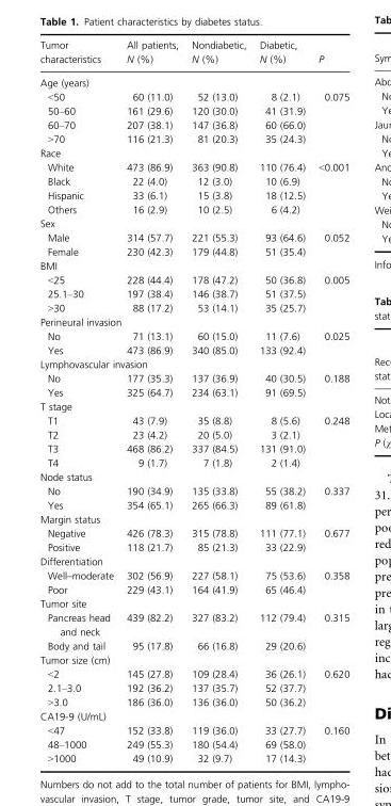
<table><thead><tr><td>Tumor characteristics</td><td>All patients, N (%)</td><td>Nondiabetic, N (%)</td><td>Diabetic, N (%)</td><td>P</td></tr></thead><tbody><tr><td colspan="5">Age (years)</td></tr><tr><td>&lt;50</td><td>60 (11.0)</td><td>52 (13.0)</td><td>8 (2.1)</td><td rowspan="4">0.075</td></tr><tr><td>50–60</td><td>161 (29.6)</td><td>120 (30.0)</td><td>41 (31.9)</td></tr><tr><td>60–70</td><td>207 (38.1)</td><td>147 (36.8)</td><td>60 (66.0)</td></tr><tr><td>&gt;70</td><td>116 (21.3)</td><td>81 (20.3)</td><td>35 (24.3)</td></tr><tr><td colspan="5">Race</td></tr><tr><td>White</td><td>473 (86.9)</td><td>363 (90.8)</td><td>110 (76.4)</td><td rowspan="4">&lt;0.001</td></tr><tr><td>Black</td><td>22 (4.0)</td><td>12 (3.0)</td><td>10 (6.9)</td></tr><tr><td>Hispanic</td><td>33 (6.1)</td><td>15 (3.8)</td><td>18 (12.5)</td></tr><tr><td>Others</td><td>16 (2.9)</td><td>10 (2.5)</td><td>6 (4.2)</td></tr><tr><td colspan="5">Sex</td></tr><tr><td>Male</td><td>314 (57.7)</td><td>221 (55.3)</td><td>93 (64.6)</td><td rowspan="2">0.052</td></tr><tr><td>Female</td><td>230 (42.3)</td><td>179 (44.8)</td><td>51 (35.4)</td></tr><tr><td colspan="5">BMI</td></tr><tr><td>&lt;25</td><td>228 (44.4)</td><td>178 (47.2)</td><td>50 (36.8)</td><td rowspan="3">0.005</td></tr><tr><td>25.1–30</td><td>197 (38.4)</td><td>146 (38.7)</td><td>51 (37.5)</td></tr><tr><td>&gt;30</td><td>88 (17.2)</td><td>53 (14.1)</td><td>35 (25.7)</td></tr><tr><td colspan="5">Perineural invasion</td></tr><tr><td>No</td><td>71 (13.1)</td><td>60 (15.0)</td><td>11 (7.6)</td><td rowspan="2">0.025</td></tr><tr><td>Yes</td><td>473 (86.9)</td><td>340 (85.0)</td><td>133 (92.4)</td></tr><tr><td colspan="5">Lymphovascular invasion</td></tr><tr><td>No</td><td>177 (35.3)</td><td>137 (36.9)</td><td>40 (30.5)</td><td rowspan="2">0.188</td></tr><tr><td>Yes</td><td>325 (64.7)</td><td>234 (63.1)</td><td>91 (69.5)</td></tr><tr><td colspan="5">T stage</td></tr><tr><td>T1</td><td>43 (7.9)</td><td>35 (8.8)</td><td>8 (5.6)</td><td rowspan="4">0.248</td></tr><tr><td>T2</td><td>23 (4.2)</td><td>20 (5.0)</td><td>3 (2.1)</td></tr><tr><td>T3</td><td>468 (86.2)</td><td>337 (84.5)</td><td>131 (91.0)</td></tr><tr><td>T4</td><td>9 (1.7)</td><td>7 (1.8)</td><td>2 (1.4)</td></tr><tr><td colspan="5">Node status</td></tr><tr><td>No</td><td>190 (34.9)</td><td>135 (33.8)</td><td>55 (38.2)</td><td rowspan="2">0.337</td></tr><tr><td>Yes</td><td>354 (65.1)</td><td>265 (66.3)</td><td>89 (61.8)</td></tr><tr><td colspan="5">Margin status</td></tr><tr><td>Negative</td><td>426 (78.3)</td><td>315 (78.8)</td><td>111 (77.1)</td><td rowspan="2">0.677</td></tr><tr><td>Positive</td><td>118 (21.7)</td><td>85 (21.3)</td><td>33 (22.9)</td></tr><tr><td colspan="5">Differentiation</td></tr><tr><td>Well–moderate</td><td>302 (56.9)</td><td>227 (58.1)</td><td>75 (53.6)</td><td rowspan="2">0.358</td></tr><tr><td>Poor</td><td>229 (43.1)</td><td>164 (41.9)</td><td>65 (46.4)</td></tr><tr><td colspan="5">Tumor site</td></tr><tr><td>Pancreas head and neck</td><td>439 (82.2)</td><td>327 (83.2)</td><td>112 (79.4)</td><td rowspan="2">0.315</td></tr><tr><td>Body and tail</td><td>95 (17.8)</td><td>66 (16.8)</td><td>29 (20.6)</td></tr><tr><td colspan="5">Tumor size (cm)</td></tr><tr><td>&lt;2</td><td>145 (27.8)</td><td>109 (28.4)</td><td>36 (26.1)</td><td rowspan="3">0.620</td></tr><tr><td>2.1–3.0</td><td>192 (36.2)</td><td>137 (35.7)</td><td>52 (37.7)</td></tr><tr><td>&gt;3.0</td><td>186 (36.0)</td><td>136 (36.0)</td><td>50 (36.2)</td></tr><tr><td colspan="5">CA19-9 (U/mL)</td></tr><tr><td>&lt;47</td><td>152 (33.8)</td><td>119 (36.0)</td><td>33 (27.7)</td><td rowspan="3">0.160</td></tr><tr><td>48–1000</td><td>249 (55.3)</td><td>180 (54.4)</td><td>69 (58.0)</td></tr><tr><td>&gt;1000</td><td>49 (10.9)</td><td>32 (9.7)</td><td>17 (14.3)</td></tr></tbody></table>